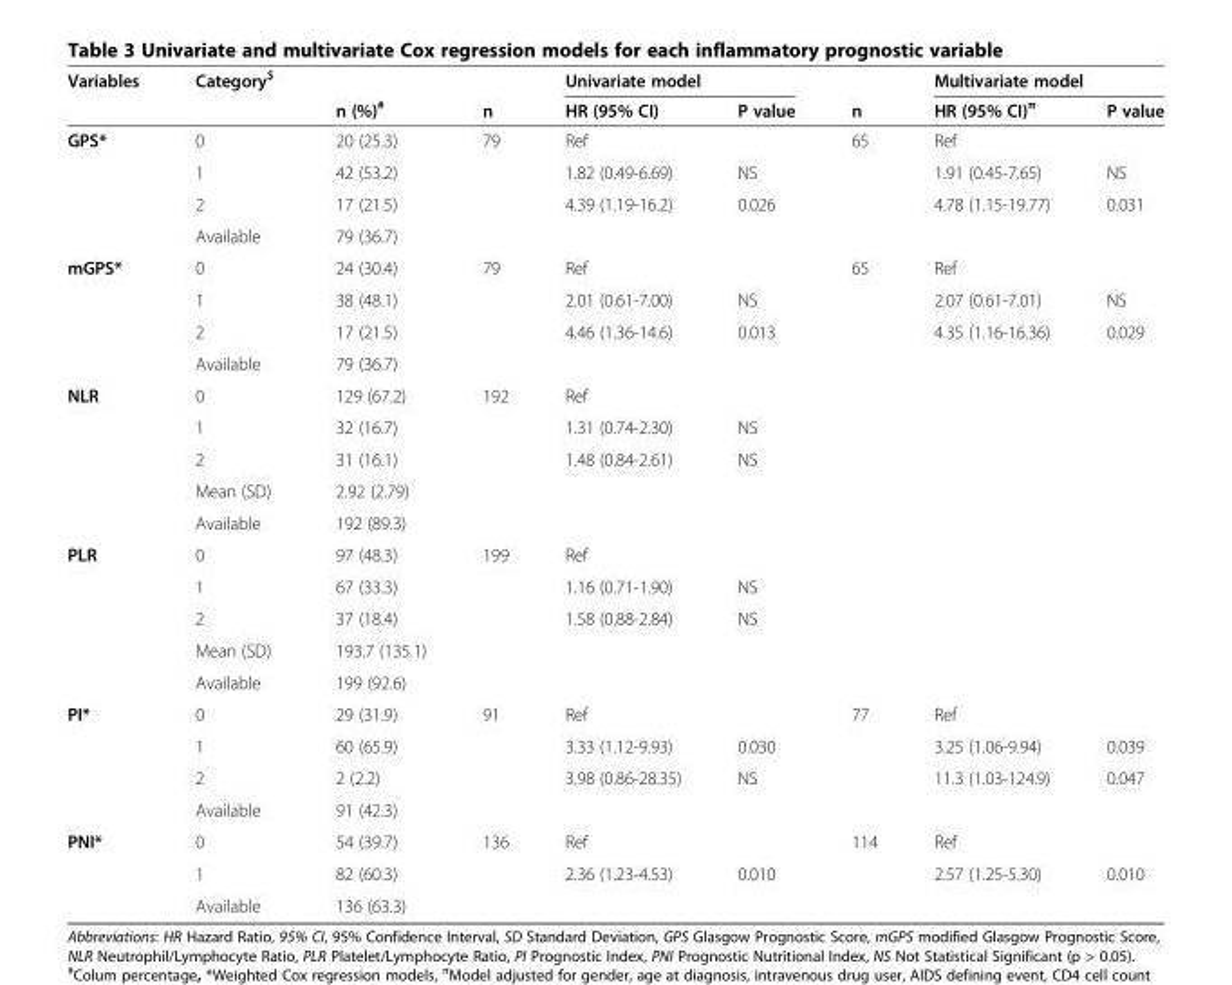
<table><thead><tr><td rowspan="2">Variables</td><td rowspan="2">Category<sup>$</sup></td><td rowspan="2">n (%)<sup>#</sup></td><td rowspan="2">n</td><td colspan="2">Univariate model</td><td rowspan="2">n</td><td colspan="2">Multivariate model</td></tr><tr><td>HR (95% CI)</td><td>P value</td><td>HR (95% CI)<sup>π</sup></td><td>P value</td></tr></thead><tbody><tr><td rowspan="4">GPS*</td><td>0</td><td>20 (25.3)</td><td>79</td><td>Ref</td><td></td><td>65</td><td>Ref</td><td></td></tr><tr><td>1</td><td>42 (53.2)</td><td></td><td>1.82 (0.49-6.69)</td><td>NS</td><td></td><td>1.91 (0.45-7.65)</td><td>NS</td></tr><tr><td>2</td><td>17 (21.5)</td><td></td><td>4.39 (1.19-16.2)</td><td>0.026</td><td></td><td>4.78 (1.15-19.77)</td><td>0.031</td></tr><tr><td>Available</td><td>79 (36.7)</td><td></td><td></td><td></td><td></td><td></td><td></td></tr><tr><td rowspan="4">mGPS*</td><td>0</td><td>24 (30.4)</td><td>79</td><td>Ref</td><td></td><td>65</td><td>Ref</td><td></td></tr><tr><td>1</td><td>38 (48.1)</td><td></td><td>2.01 (0.61-7.00)</td><td>NS</td><td></td><td>2.07 (0.61-7.01)</td><td>NS</td></tr><tr><td>2</td><td>17 (21.5)</td><td></td><td>4.46 (1.36-14.6)</td><td>0.013</td><td></td><td>4.35 (1.16-16.36)</td><td>0.029</td></tr><tr><td>Available</td><td>79 (36.7)</td><td></td><td></td><td></td><td></td><td></td><td></td></tr><tr><td rowspan="5">NLR</td><td>0</td><td>129 (67.2)</td><td>192</td><td>Ref</td><td></td><td></td><td></td><td></td></tr><tr><td>1</td><td>32 (16.7)</td><td></td><td>1.31 (0.74-2.30)</td><td>NS</td><td></td><td></td><td></td></tr><tr><td>2</td><td>31 (16.1)</td><td></td><td>1.48 (0.84-2.61)</td><td>NS</td><td></td><td></td><td></td></tr><tr><td>Mean (SD)</td><td>2.92 (2.79)</td><td></td><td></td><td></td><td></td><td></td><td></td></tr><tr><td>Available</td><td>192 (89.3)</td><td></td><td></td><td></td><td></td><td></td><td></td></tr><tr><td rowspan="5">PLR</td><td>0</td><td>97 (48.3)</td><td>199</td><td>Ref</td><td></td><td></td><td></td><td></td></tr><tr><td>1</td><td>67 (33.3)</td><td></td><td>1.16 (0.71-1.90)</td><td>NS</td><td></td><td></td><td></td></tr><tr><td>2</td><td>37 (18.4)</td><td></td><td>1.58 (0.88-2.84)</td><td>NS</td><td></td><td></td><td></td></tr><tr><td>Mean (SD)</td><td>193.7 (135.1)</td><td></td><td></td><td></td><td></td><td></td><td></td></tr><tr><td>Available</td><td>199 (92.6)</td><td></td><td></td><td></td><td></td><td></td><td></td></tr><tr><td rowspan="4">PI*</td><td>0</td><td>29 (31.9)</td><td>91</td><td>Ref</td><td></td><td>77</td><td>Ref</td><td></td></tr><tr><td>1</td><td>60 (65.9)</td><td></td><td>3.33 (1.12-9.93)</td><td>0.030</td><td></td><td>3.25 (1.06-9.94)</td><td>0.039</td></tr><tr><td>2</td><td>2 (2.2)</td><td></td><td>3.98 (0.86-28.35)</td><td>NS</td><td></td><td>11.3 (1.03-124.9)</td><td>0.047</td></tr><tr><td>Available</td><td>91 (42.3)</td><td></td><td></td><td></td><td></td><td></td><td></td></tr><tr><td rowspan="3">PNI*</td><td>0</td><td>54 (39.7)</td><td>136</td><td>Ref</td><td></td><td>114</td><td>Ref</td><td></td></tr><tr><td>1</td><td>82 (60.3)</td><td></td><td>2.36 (1.23-4.53)</td><td>0.010</td><td></td><td>2.57 (1.25-5.30)</td><td>0.010</td></tr><tr><td>Available</td><td>136 (63.3)</td><td></td><td></td><td></td><td></td><td></td><td></td></tr></tbody></table>